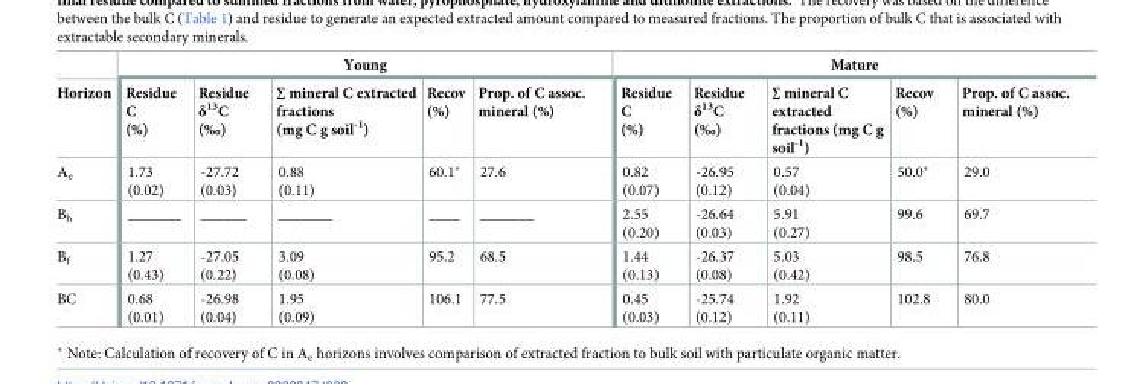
<table><thead><tr><td rowspan="2">Horizon</td><td colspan="5">Young</td><td colspan="5">Mature</td></tr><tr><td>Residue C (%)</td><td>Residue δ<sup>13</sup>C (‰)</td><td>∑ mineral C extracted fractions (mg C g soil<sup>-1</sup>)</td><td>Recov (%)</td><td>Prop. of C assoc. mineral (%)</td><td>Residue C (%)</td><td>Residue δ<sup>13</sup>C (‰)</td><td>∑ mineral C extracted fractions (mg C g soil<sup>-1</sup>)</td><td>Recov (%)</td><td>Prop. of C assoc. mineral (%)</td></tr></thead><tbody><tr><td>A<sub>e</sub></td><td>1.73 (0.02)</td><td>-27.72 (0.03)</td><td>0.88 (0.11)</td><td>60.1*</td><td>27.6</td><td>0.82 (0.07)</td><td>-26.95 (0.12)</td><td>0.57 (0.04)</td><td>50.0*</td><td>29.0</td></tr><tr><td>B<sub>h</sub></td><td>_______</td><td>______</td><td>_______</td><td>____</td><td>_______</td><td>2.55 (0.20)</td><td>-26.64 (0.03)</td><td>5.91 (0.27)</td><td>99.6</td><td>69.7</td></tr><tr><td>B<sub>f</sub></td><td>1.27 (0.43)</td><td>-27.05 (0.22)</td><td>3.09 (0.08)</td><td>95.2</td><td>68.5</td><td>1.44 (0.13)</td><td>-26.37 (0.08)</td><td>5.03 (0.42)</td><td>98.5</td><td>76.8</td></tr><tr><td>BC</td><td>0.68 (0.01)</td><td>-26.98 (0.04)</td><td>1.95 (0.09)</td><td>106.1</td><td>77.5</td><td>0.45 (0.03)</td><td>-25.74 (0.12)</td><td>1.92 (0.11)</td><td>102.8</td><td>80.0</td></tr></tbody></table>